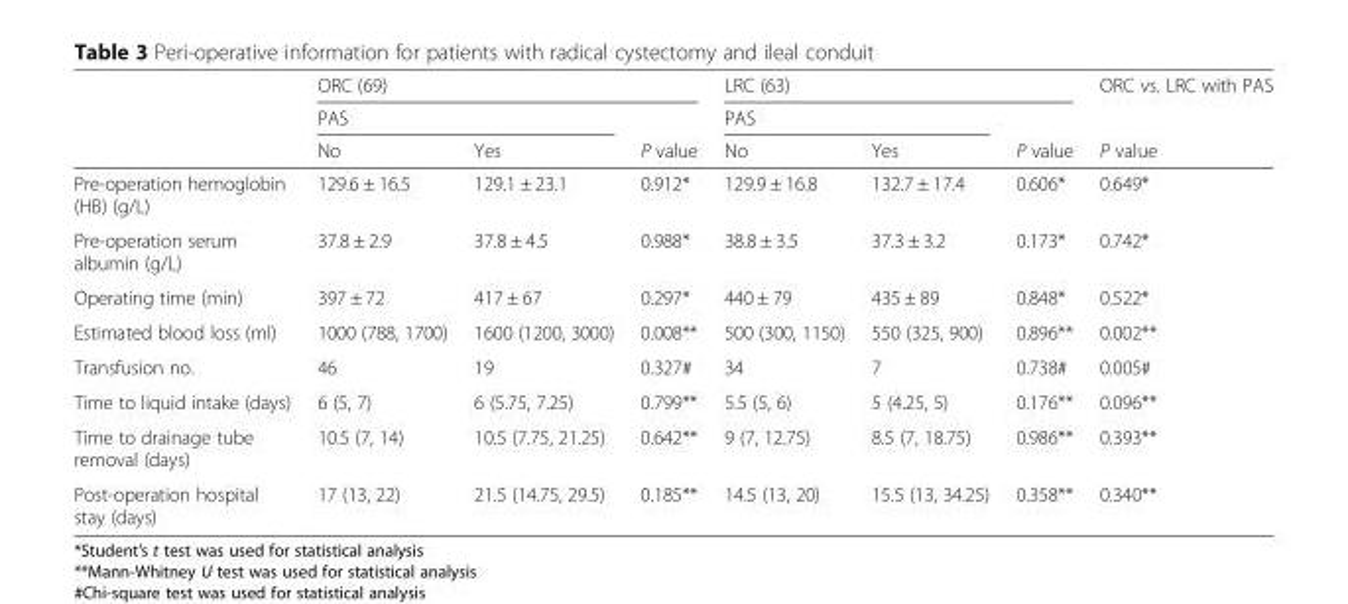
<table><thead><tr><td rowspan="3"></td><td colspan="3">ORC (69)</td><td colspan="3">LRC (63)</td><td rowspan="3">ORC vs. LRC with PAS P value</td></tr><tr><td colspan="2">PAS</td><td rowspan="2">P value</td><td colspan="2">PAS</td><td rowspan="2">P value</td></tr><tr><td>No</td><td>Yes</td><td>No</td><td>Yes</td></tr></thead><tbody><tr><td>Pre-operation hemoglobin (HB) (g/L)</td><td>129.6 ± 16.5</td><td>129.1 ± 23.1</td><td>0.912*</td><td>129.9 ± 16.8</td><td>132.7 ± 17.4</td><td>0.606*</td><td>0.649*</td></tr><tr><td>Pre-operation serum albumin (g/L)</td><td>37.8 ± 2.9</td><td>37.8 ± 4.5</td><td>0.988*</td><td>38.8 ± 3.5</td><td>37.3 ± 3.2</td><td>0.173*</td><td>0.742*</td></tr><tr><td>Operating time (min)</td><td>397 ± 72</td><td>417 ± 67</td><td>0.297*</td><td>440 ± 79</td><td>435 ± 89</td><td>0.848*</td><td>0.522*</td></tr><tr><td>Estimated blood loss (ml)</td><td>1000 (788, 1700)</td><td>1600 (1200, 3000)</td><td>0.008**</td><td>500 (300, 1150)</td><td>550 (325, 900)</td><td>0.896**</td><td>0.002**</td></tr><tr><td>Transfusion no.</td><td>46</td><td>19</td><td>0.327#</td><td>34</td><td>7</td><td>0.738#</td><td>0.005#</td></tr><tr><td>Time to liquid intake (days)</td><td>6 (5, 7)</td><td>6 (5.75, 7.25)</td><td>0.799**</td><td>5.5 (5, 6)</td><td>5 (4.25, 5)</td><td>0.176**</td><td>0.096**</td></tr><tr><td>Time to drainage tube removal (days)</td><td>10.5 (7, 14)</td><td>10.5 (7.75, 21.25)</td><td>0.642**</td><td>9 (7, 12.75)</td><td>8.5 (7, 18.75)</td><td>0.986**</td><td>0.393**</td></tr><tr><td>Post-operation hospital stay (days)</td><td>17 (13, 22)</td><td>21.5 (14.75, 29.5)</td><td>0.185**</td><td>14.5 (13, 20)</td><td>15.5 (13, 34.25)</td><td>0.358**</td><td>0.340**</td></tr></tbody></table>